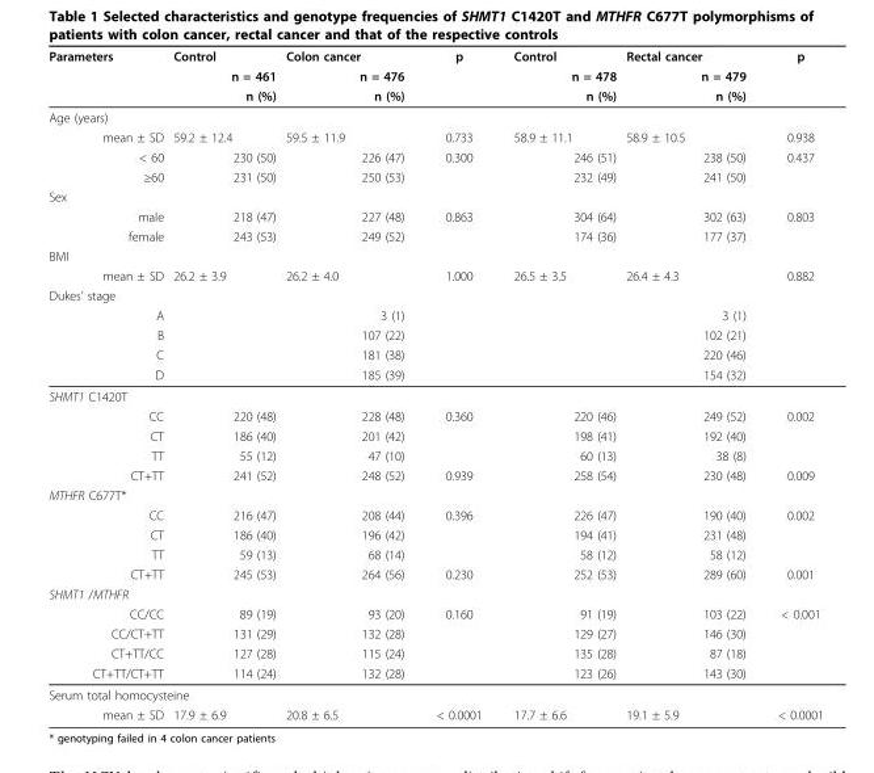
<table><thead><tr><td rowspan="3">Parameters</td><td rowspan="3">Control n = 461 n (%)</td><td rowspan="3">Colon cancer n = 476 n (%)</td><td rowspan="3">p</td><td rowspan="3">Control n = 478 n (%)</td><td rowspan="3">Rectal cancer n = 479 n (%)</td><td rowspan="3">p</td></tr><tr></tr><tr></tr></thead><tbody><tr><td colspan="7">Age (years)</td></tr><tr><td>mean ± SD</td><td>59.2 ± 12.4</td><td>59.5 ± 11.9</td><td>0.733</td><td>58.9 ± 11.1</td><td>58.9 ± 10.5</td><td>0.938</td></tr><tr><td>&lt; 60</td><td>230 (50)</td><td>226 (47)</td><td>0.300</td><td>246 (51)</td><td>238 (50)</td><td>0.437</td></tr><tr><td>≥60</td><td>231 (50)</td><td>250 (53)</td><td></td><td>232 (49)</td><td>241 (50)</td><td></td></tr><tr><td colspan="7">Sex</td></tr><tr><td>male</td><td>218 (47)</td><td>227 (48)</td><td>0.863</td><td>304 (64)</td><td>302 (63)</td><td>0.803</td></tr><tr><td>female</td><td>243 (53)</td><td>249 (52)</td><td></td><td>174 (36)</td><td>177 (37)</td><td></td></tr><tr><td colspan="7">BMI</td></tr><tr><td>mean ± SD</td><td>26.2 ± 3.9</td><td>26.2 ± 4.0</td><td>1.000</td><td>26.5 ± 3.5</td><td>26.4 ± 4.3</td><td>0.882</td></tr><tr><td colspan="7">Dukes’ stage</td></tr><tr><td>A</td><td></td><td>3 (1)</td><td></td><td></td><td>3 (1)</td><td></td></tr><tr><td>B</td><td></td><td>107 (22)</td><td></td><td></td><td>102 (21)</td><td></td></tr><tr><td>C</td><td></td><td>181 (38)</td><td></td><td></td><td>220 (46)</td><td></td></tr><tr><td>D</td><td></td><td>185 (39)</td><td></td><td></td><td>154 (32)</td><td></td></tr><tr><td colspan="7">SHMT1 C1420T</td></tr><tr><td>CC</td><td>220 (48)</td><td>228 (48)</td><td>0.360</td><td>220 (46)</td><td>249 (52)</td><td>0.002</td></tr><tr><td>CT</td><td>186 (40)</td><td>201 (42)</td><td></td><td>198 (41)</td><td>192 (40)</td><td></td></tr><tr><td>TT</td><td>55 (12)</td><td>47 (10)</td><td></td><td>60 (13)</td><td>38 (8)</td><td></td></tr><tr><td>CT+TT</td><td>241 (52)</td><td>248 (52)</td><td>0.939</td><td>258 (54)</td><td>230 (48)</td><td>0.009</td></tr><tr><td colspan="7">MTHFR C677T*</td></tr><tr><td>CC</td><td>216 (47)</td><td>208 (44)</td><td>0.396</td><td>226 (47)</td><td>190 (40)</td><td>0.002</td></tr><tr><td>CT</td><td>186 (40)</td><td>196 (42)</td><td></td><td>194 (41)</td><td>231 (48)</td><td></td></tr><tr><td>TT</td><td>59 (13)</td><td>68 (14)</td><td></td><td>58 (12)</td><td>58 (12)</td><td></td></tr><tr><td>CT+TT</td><td>245 (53)</td><td>264 (56)</td><td>0.230</td><td>252 (53)</td><td>289 (60)</td><td>0.001</td></tr><tr><td colspan="7">SHMT1 /MTHFR</td></tr><tr><td>CC/CC</td><td>89 (19)</td><td>93 (20)</td><td>0.160</td><td>91 (19)</td><td>103 (22)</td><td>&lt; 0.001</td></tr><tr><td>CC/CT+TT</td><td>131 (29)</td><td>132 (28)</td><td></td><td>129 (27)</td><td>146 (30)</td><td></td></tr><tr><td>CT+TT/CC</td><td>127 (28)</td><td>115 (24)</td><td></td><td>135 (28)</td><td>87 (18)</td><td></td></tr><tr><td>CT+TT/CT+TT</td><td>114 (24)</td><td>132 (28)</td><td></td><td>123 (26)</td><td>143 (30)</td><td></td></tr><tr><td colspan="7">Serum total homocysteine</td></tr><tr><td>mean ± SD</td><td>17.9 ± 6.9</td><td>20.8 ± 6.5</td><td>&lt; 0.0001</td><td>17.7 ± 6.6</td><td>19.1 ± 5.9</td><td>&lt; 0.0001</td></tr></tbody></table>